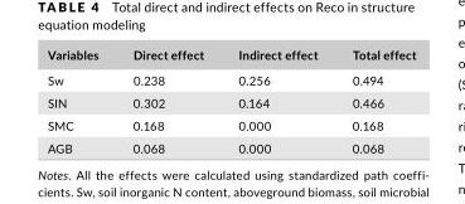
<table><thead><tr><td>Variables</td><td>Direct effect</td><td>Indirect effect</td><td>Total effect</td></tr></thead><tbody><tr><td>Sw</td><td>0.238</td><td>0.256</td><td>0.494</td></tr><tr><td>SIN</td><td>0.302</td><td>0.164</td><td>0.466</td></tr><tr><td>SMC</td><td>0.168</td><td>0.000</td><td>0.168</td></tr><tr><td>AGB</td><td>0.068</td><td>0.000</td><td>0.068</td></tr></tbody></table>